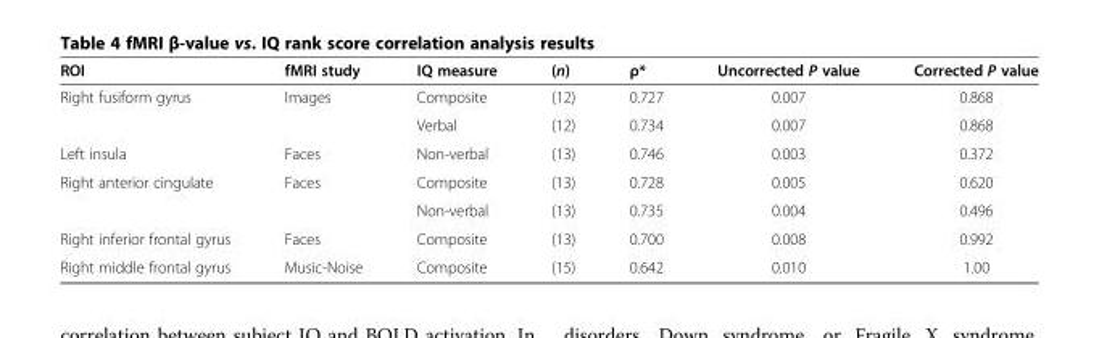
<table><thead><tr><td>ROI</td><td>fMRI study</td><td>IQ measure</td><td>(n)</td><td>ρ*</td><td>Uncorrected P value</td><td>Corrected P value</td></tr></thead><tbody><tr><td rowspan="2">Right fusiform gyrus</td><td rowspan="2">Images</td><td>Composite</td><td>(12)</td><td>0.727</td><td>0.007</td><td>0.868</td></tr><tr><td>Verbal</td><td>(12)</td><td>0.734</td><td>0.007</td><td>0.868</td></tr><tr><td>Left insula</td><td>Faces</td><td>Non-verbal</td><td>(13)</td><td>0.746</td><td>0.003</td><td>0.372</td></tr><tr><td rowspan="2">Right anterior cingulate</td><td rowspan="2">Faces</td><td>Composite</td><td>(13)</td><td>0.728</td><td>0.005</td><td>0.620</td></tr><tr><td>Non-verbal</td><td>(13)</td><td>0.735</td><td>0.004</td><td>0.496</td></tr><tr><td>Right inferior frontal gyrus</td><td>Faces</td><td>Composite</td><td>(13)</td><td>0.700</td><td>0.008</td><td>0.992</td></tr><tr><td>Right middle frontal gyrus</td><td>Music-Noise</td><td>Composite</td><td>(15)</td><td>0.642</td><td>0.010</td><td>1.00</td></tr></tbody></table>